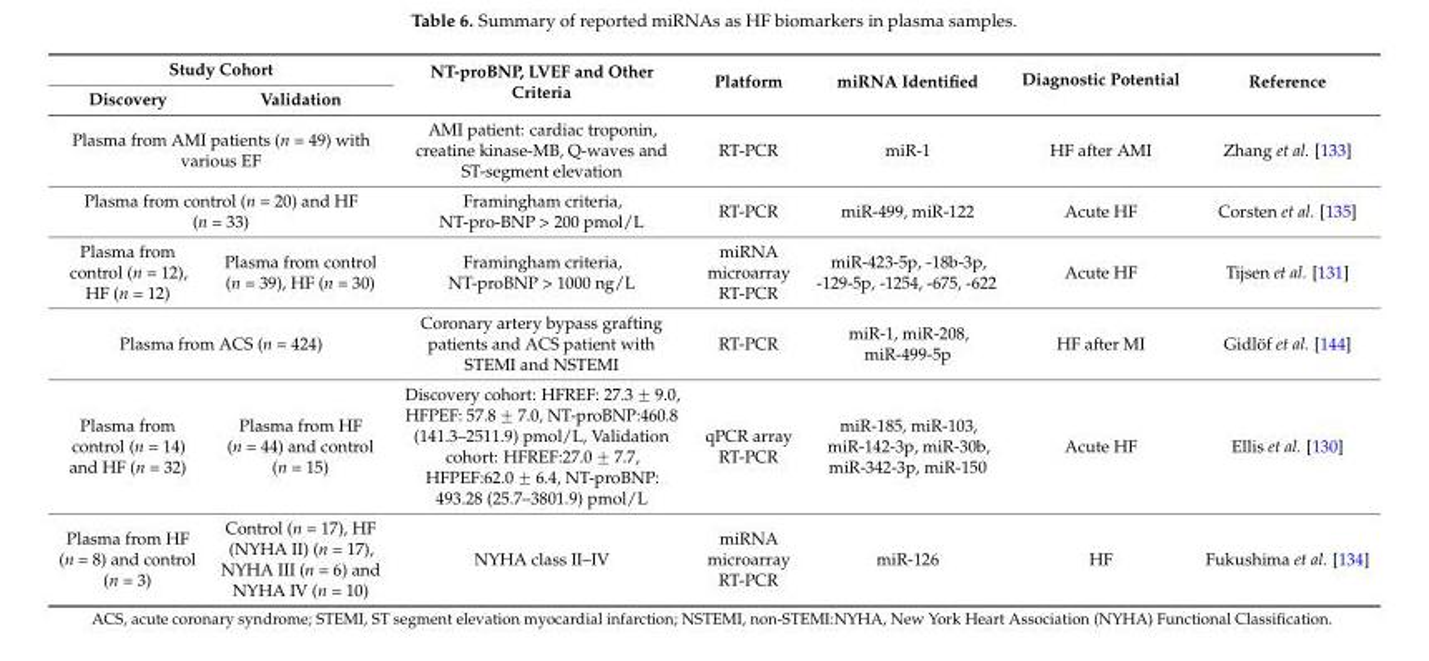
<table><thead><tr><td colspan="2">Study Cohort</td><td rowspan="2">NT-proBNP, LVEF and Other Criteria</td><td rowspan="2">Platform</td><td rowspan="2">miRNA Identified</td><td rowspan="2">Diagnostic Potential</td><td rowspan="2">Reference</td></tr><tr><td>Discovery</td><td>Validation</td></tr></thead><tbody><tr><td colspan="2">Plasma from AMI patients (n = 49) with various EF</td><td>AMI patient: cardiac troponin, creatine kinase-MB, Q-waves and ST-segment elevation</td><td>RT-PCR</td><td>miR-1</td><td>HF after AMI</td><td>Zhang et al. [133]</td></tr><tr><td colspan="2">Plasma from control (n = 20) and HF (n = 33)</td><td>Framingham criteria, NT-pro-BNP &gt; 200 pmol/L</td><td>RT-PCR</td><td>miR-499, miR-122</td><td>Acute HF</td><td>Corsten et al. [135]</td></tr><tr><td>Plasma from control (n = 12), HF (n = 12)</td><td>Plasma from control (n = 39), HF (n = 30)</td><td>Framingham criteria, NT-proBNP &gt; 1000 ng/L</td><td>miRNA microarray RT-PCR</td><td>miR-423-5p, -18b-3p, -129-5p, -1254, -675, -622</td><td>Acute HF</td><td>Tijsen et al. [131]</td></tr><tr><td colspan="2">Plasma from ACS (n = 424)</td><td>Coronary artery bypass grafting patients and ACS patient with STEMI and NSTEMI</td><td>RT-PCR</td><td>miR-1, miR-208, miR-499-5p</td><td>HF after MI</td><td>Gidlöf et al. [144]</td></tr><tr><td>Plasma from control (n = 14) and HF (n = 32)</td><td>Plasma from HF (n = 44) and control (n = 15)</td><td>Discovery cohort: HFREF: 27.3 ˘ 9.0, HFPEF: 57.8 ˘ 7.0, NT-proBNP:460.8 (141.3–2511.9) pmol/L, Validation cohort: HFREF:27.0 ˘ 7.7, HFPEF:62.0 ˘ 6.4, NT-proBNP: 493.28 (25.7–3801.9) pmol/L</td><td>qPCR array RT-PCR</td><td>miR-185, miR-103, miR-142-3p, miR-30b, miR-342-3p, miR-150</td><td>Acute HF</td><td>Ellis et al. [130]</td></tr><tr><td>Plasma from HF (n = 8) and control (n = 3)</td><td>Control (n = 17), HF (NYHA II) (n = 17), NYHA III (n = 6) and NYHA IV (n = 10)</td><td>NYHA class II–IV</td><td>miRNA microarray RT-PCR</td><td>miR-126</td><td>HF</td><td>Fukushima et al. [134]</td></tr></tbody></table>